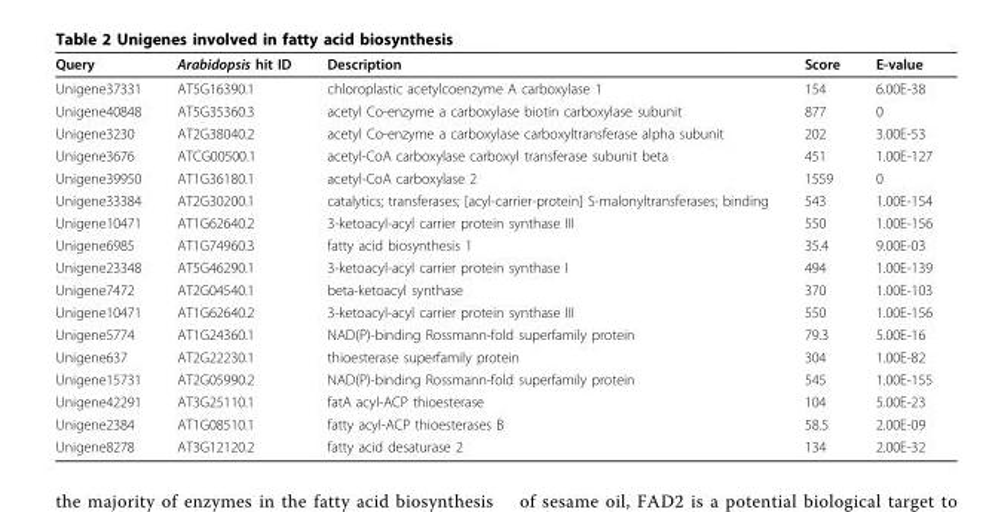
<table><thead><tr><td>Query</td><td>Arabidopsis hit ID</td><td>Description</td><td>Score</td><td>E-value</td></tr></thead><tbody><tr><td>Unigene37331</td><td>AT5G16390.1</td><td>chloroplastic acetylcoenzyme A carboxylase 1</td><td>154</td><td>6.00E-38</td></tr><tr><td>Unigene40848</td><td>AT5G35360.3</td><td>acetyl Co-enzyme a carboxylase biotin carboxylase subunit</td><td>877</td><td>0</td></tr><tr><td>Unigene3230</td><td>AT2G38040.2</td><td>acetyl Co-enzyme a carboxylase carboxyltransferase alpha subunit</td><td>202</td><td>3.00E-53</td></tr><tr><td>Unigene3676</td><td>ATCG00500.1</td><td>acetyl-CoA carboxylase carboxyl transferase subunit beta</td><td>451</td><td>1.00E-127</td></tr><tr><td>Unigene39950</td><td>AT1G36180.1</td><td>acetyl-CoA carboxylase 2</td><td>1559</td><td>0</td></tr><tr><td>Unigene33384</td><td>AT2G30200.1</td><td>catalytics; transferases; [acyl-carrier-protein] S-malonyltransferases; binding</td><td>543</td><td>1.00E-154</td></tr><tr><td>Unigene10471</td><td>AT1G62640.2</td><td>3-ketoacyl-acyl carrier protein synthase III</td><td>550</td><td>1.00E-156</td></tr><tr><td>Unigene6985</td><td>AT1G74960.3</td><td>fatty acid biosynthesis 1</td><td>35.4</td><td>9.00E-03</td></tr><tr><td>Unigene23348</td><td>AT5G46290.1</td><td>3-ketoacyl-acyl carrier protein synthase I</td><td>494</td><td>1.00E-139</td></tr><tr><td>Unigene7472</td><td>AT2G04540.1</td><td>beta-ketoacyl synthase</td><td>370</td><td>1.00E-103</td></tr><tr><td>Unigene10471</td><td>AT1G62640.2</td><td>3-ketoacyl-acyl carrier protein synthase III</td><td>550</td><td>1.00E-156</td></tr><tr><td>Unigene5774</td><td>AT1G24360.1</td><td>NAD(P)-binding Rossmann-fold superfamily protein</td><td>79.3</td><td>5.00E-16</td></tr><tr><td>Unigene637</td><td>AT2G22230.1</td><td>thioesterase superfamily protein</td><td>304</td><td>1.00E-82</td></tr><tr><td>Unigene15731</td><td>AT2G05990.2</td><td>NAD(P)-binding Rossmann-fold superfamily protein</td><td>545</td><td>1.00E-155</td></tr><tr><td>Unigene42291</td><td>AT3G25110.1</td><td>fatA acyl-ACP thioesterase</td><td>104</td><td>5.00E-23</td></tr><tr><td>Unigene2384</td><td>AT1G08510.1</td><td>fatty acyl-ACP thioesterases B</td><td>58.5</td><td>2.00E-09</td></tr><tr><td>Unigene8278</td><td>AT3G12120.2</td><td>fatty acid desaturase 2</td><td>134</td><td>2.00E-32</td></tr></tbody></table>